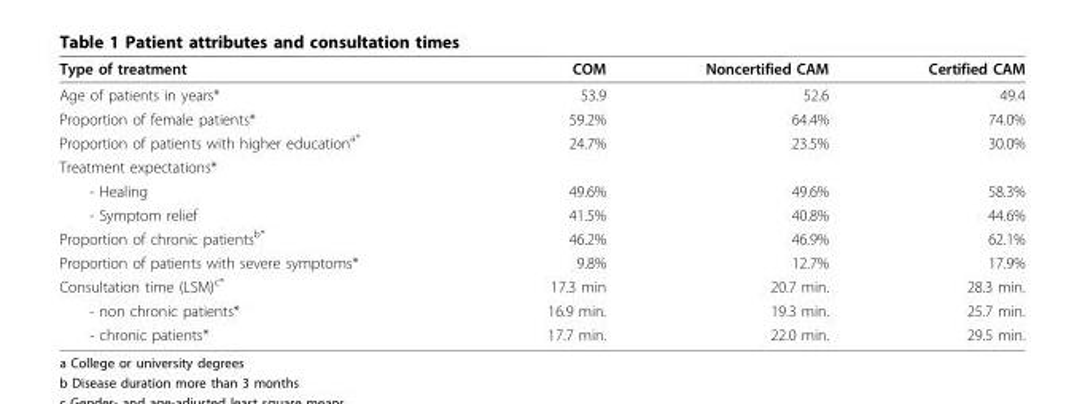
<table><thead><tr><td>Type of treatment</td><td>COM</td><td>Noncertified CAM</td><td>Certified CAM</td></tr></thead><tbody><tr><td>Age of patients in years*</td><td>53.9</td><td>52.6</td><td>49.4</td></tr><tr><td>Proportion of female patients*</td><td>59.2%</td><td>64.4%</td><td>74.0%</td></tr><tr><td>Proportion of patients with higher education<sup>a*</sup></td><td>24.7%</td><td>23.5%</td><td>30.0%</td></tr><tr><td colspan="4">Treatment expectations*</td></tr><tr><td>- Healing</td><td>49.6%</td><td>49.6%</td><td>58.3%</td></tr><tr><td>- Symptom relief</td><td>41.5%</td><td>40.8%</td><td>44.6%</td></tr><tr><td>Proportion of chronic patients<sup>b*</sup></td><td>46.2%</td><td>46.9%</td><td>62.1%</td></tr><tr><td>Proportion of patients with severe symptoms*</td><td>9.8%</td><td>12.7%</td><td>17.9%</td></tr><tr><td>Consultation time (LSM)<sup>c*</sup></td><td>17.3 min</td><td>20.7 min.</td><td>28.3 min.</td></tr><tr><td>- non chronic patients*</td><td>16.9 min.</td><td>19.3 min.</td><td>25.7 min.</td></tr><tr><td>- chronic patients*</td><td>17.7 min.</td><td>22.0 min.</td><td>29.5 min.</td></tr></tbody></table>